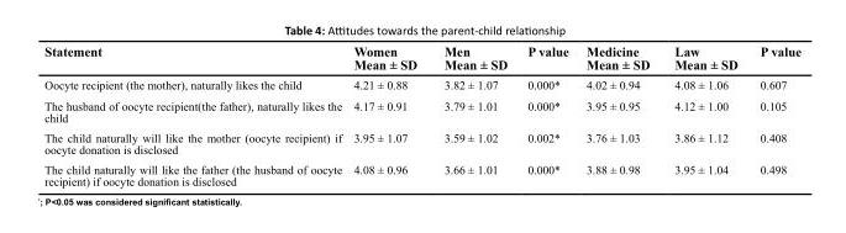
<table><thead><tr><td>Statement</td><td>Women Mean ± SD</td><td>Men Mean ± SD</td><td>P value</td><td>Medicine Mean ± SD</td><td>Law Mean ± SD</td><td>P value</td></tr></thead><tbody><tr><td>Oocyte recipient (the mother), naturally likes the child</td><td>4.21 ± 0.88</td><td>3.82 ± 1.07</td><td>0.000*</td><td>4.02 ± 0.94</td><td>4.08 ± 1.06</td><td>0.607</td></tr><tr><td>The husband of oocyte recipient(the father), naturally likes the child</td><td>4.17 ± 0.91</td><td>3.79 ± 1.01</td><td>0.000*</td><td>3.95 ± 0.95</td><td>4.12 ± 1.00</td><td>0.105</td></tr><tr><td>The child naturally will like the mother (oocyte recipient) if oocyte donation is disclosed</td><td>3.95 ± 1.07</td><td>3.59 ± 1.02</td><td>0.002*</td><td>3.76 ± 1.03</td><td>3.86 ± 1.12</td><td>0.408</td></tr><tr><td>The child naturally will like the father (the husband of oocyte recipient) if oocyte donation is disclosed</td><td>4.08 ± 0.96</td><td>3.66 ± 1.01</td><td>0.000*</td><td>3.88 ± 0.98</td><td>3.95 ± 1.04</td><td>0.498</td></tr></tbody></table>